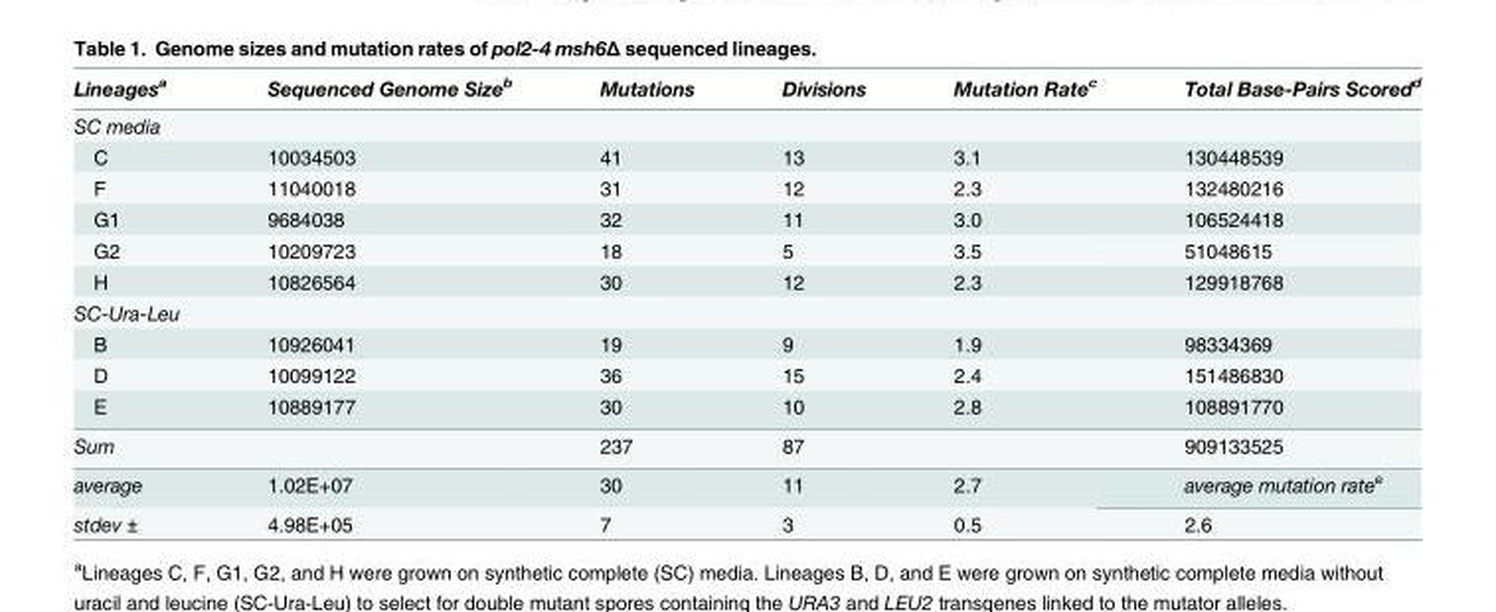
<table><thead><tr><td>Lineages<sup>a</sup></td><td>Sequenced Genome Size<sup>b</sup></td><td>Mutations</td><td>Divisions</td><td>Mutation Rate<sup>c</sup></td><td>Total Base-Pairs Scored<sup>d</sup></td></tr></thead><tbody><tr><td colspan="6">SC media</td></tr><tr><td>C</td><td>10034503</td><td>41</td><td>13</td><td>3.1</td><td>130448539</td></tr><tr><td>F</td><td>11040018</td><td>31</td><td>12</td><td>2.3</td><td>132480216</td></tr><tr><td>G1</td><td>9684038</td><td>32</td><td>11</td><td>3.0</td><td>106524418</td></tr><tr><td>G2</td><td>10209723</td><td>18</td><td>5</td><td>3.5</td><td>51048615</td></tr><tr><td>H</td><td>10826564</td><td>30</td><td>12</td><td>2.3</td><td>129918768</td></tr><tr><td colspan="6">SC-Ura-Leu</td></tr><tr><td>B</td><td>10926041</td><td>19</td><td>9</td><td>1.9</td><td>98334369</td></tr><tr><td>D</td><td>10099122</td><td>36</td><td>15</td><td>2.4</td><td>151486830</td></tr><tr><td>E</td><td>10889177</td><td>30</td><td>10</td><td>2.8</td><td>108891770</td></tr><tr><td>Sum</td><td></td><td>237</td><td>87</td><td></td><td>909133525</td></tr><tr><td>average</td><td>1.02E+07</td><td>30</td><td>11</td><td>2.7</td><td>average mutation rate<sup>e</sup></td></tr><tr><td>stdev ±</td><td>4.98E+05</td><td>7</td><td>3</td><td>0.5</td><td>2.6</td></tr></tbody></table>